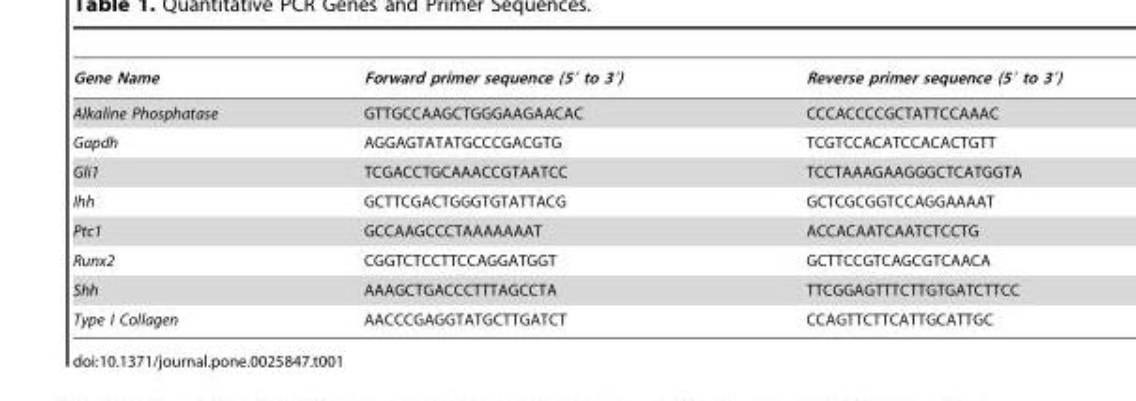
<table><thead><tr><td>Gene Name</td><td>Forward primer sequence (5′ to 3′)</td><td>Reverse primer sequence (5′ to 3′)</td></tr></thead><tbody><tr><td>Alkaline Phosphatase</td><td>GTTGCCAAGCTGGGAAGAACAC</td><td>CCCACCCCGCTATTCCAAAC</td></tr><tr><td>Gapdh</td><td>AGGAGTATATGCCCGACGTG</td><td>TCGTCCACATCCACACTGTT</td></tr><tr><td>Gli1</td><td>TCGACCTGCAAACCGTAATCC</td><td>TCCTAAAGAAGGGCTCATGGTA</td></tr><tr><td>Ihh</td><td>GCTTCGACTGGGTGTATTACG</td><td>GCTCGCGGTCCAGGAAAAT</td></tr><tr><td>Ptc1</td><td>GCCAAGCCCTAAAAAAAT</td><td>ACCACAATCAATCTCCTG</td></tr><tr><td>Runx2</td><td>CGGTCTCCTTCCAGGATGGT</td><td>GCTTCCGTCAGCGTCAACA</td></tr><tr><td>Shh</td><td>AAAGCTGACCCTTTAGCCTA</td><td>TTCGGAGTTTCTTGTGATCTTCC</td></tr><tr><td>Type I Collagen</td><td>AACCCGAGGTATGCTTGATCT</td><td>CCAGTTCTTCATTGCATTGC</td></tr></tbody></table>